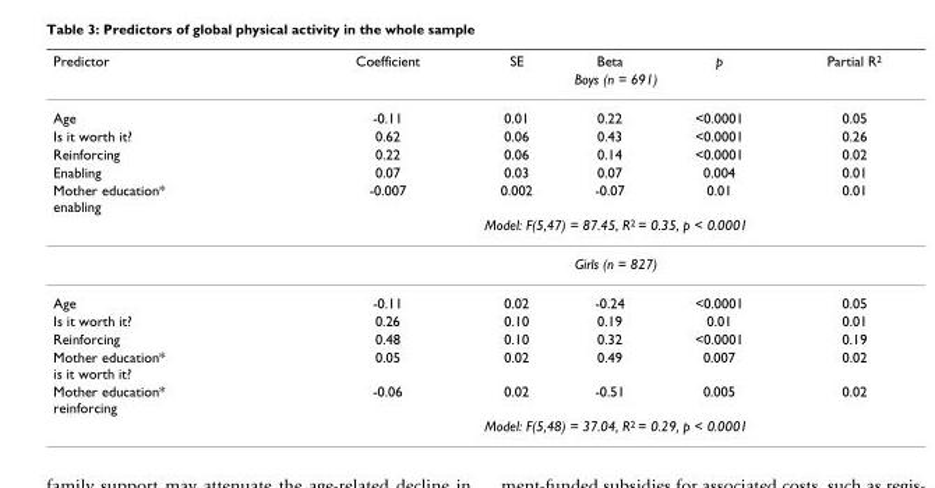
<table><thead><tr><td rowspan="2">Predictor</td><td>Coefficient</td><td>SE</td><td>Beta</td><td>p</td><td>Partial R<sup>2</sup></td></tr><tr><td colspan="5">Boys (n = 691)</td></tr></thead><tbody><tr><td>Age</td><td>-0.11</td><td>0.01</td><td>0.22</td><td>&lt;0.0001</td><td>0.05</td></tr><tr><td>Is it worth it?</td><td>0.62</td><td>0.06</td><td>0.43</td><td>&lt;0.0001</td><td>0.26</td></tr><tr><td>Reinforcing</td><td>0.22</td><td>0.06</td><td>0.14</td><td>&lt;0.0001</td><td>0.02</td></tr><tr><td>Enabling</td><td>0.07</td><td>0.03</td><td>0.07</td><td>0.004</td><td>0.01</td></tr><tr><td rowspan="3">Mother education* enabling</td><td>-0.007</td><td>0.002</td><td>-0.07</td><td>0.01</td><td>0.01</td></tr><tr><td colspan="5">Model: F(5,47) = 87.45, R<sup>2</sup> = 0.35, p &lt; 0.0001</td></tr><tr><td colspan="5">Girls (n = 827)</td></tr><tr><td>Age</td><td>-0.11</td><td>0.02</td><td>-0.24</td><td>&lt;0.0001</td><td>0.05</td></tr><tr><td>Is it worth it?</td><td>0.26</td><td>0.10</td><td>0.19</td><td>0.01</td><td>0.01</td></tr><tr><td>Reinforcing</td><td>0.48</td><td>0.10</td><td>0.32</td><td>&lt;0.0001</td><td>0.19</td></tr><tr><td>Mother education* is it worth it?</td><td>0.05</td><td>0.02</td><td>0.49</td><td>0.007</td><td>0.02</td></tr><tr><td rowspan="2">Mother education* reinforcing</td><td>-0.06</td><td>0.02</td><td>-0.51</td><td>0.005</td><td>0.02</td></tr><tr><td colspan="5">Model: F(5,48) = 37.04, R<sup>2</sup> = 0.29, p &lt; 0.0001</td></tr></tbody></table>